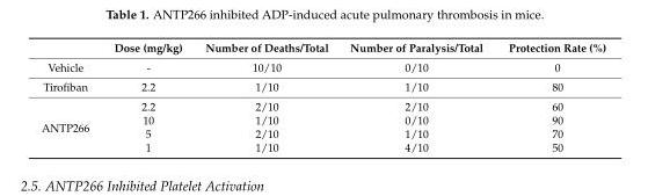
<table><thead><tr><td></td><td>Dose (mg/kg)</td><td>Number of Deaths/Total</td><td>Number of Paralysis/Total</td><td>Protection Rate (%)</td></tr></thead><tbody><tr><td>Vehicle</td><td>-</td><td>10/10</td><td>0/10</td><td>0</td></tr><tr><td>Tirofiban</td><td>2.2</td><td>1/10</td><td>1/10</td><td>80</td></tr><tr><td rowspan="4">ANTP266</td><td>2.2</td><td>2/10</td><td>2/10</td><td>60</td></tr><tr><td>10</td><td>1/10</td><td>0/10</td><td>90</td></tr><tr><td>5</td><td>2/10</td><td>1/10</td><td>70</td></tr><tr><td>1</td><td>1/10</td><td>4/10</td><td>50</td></tr></tbody></table>